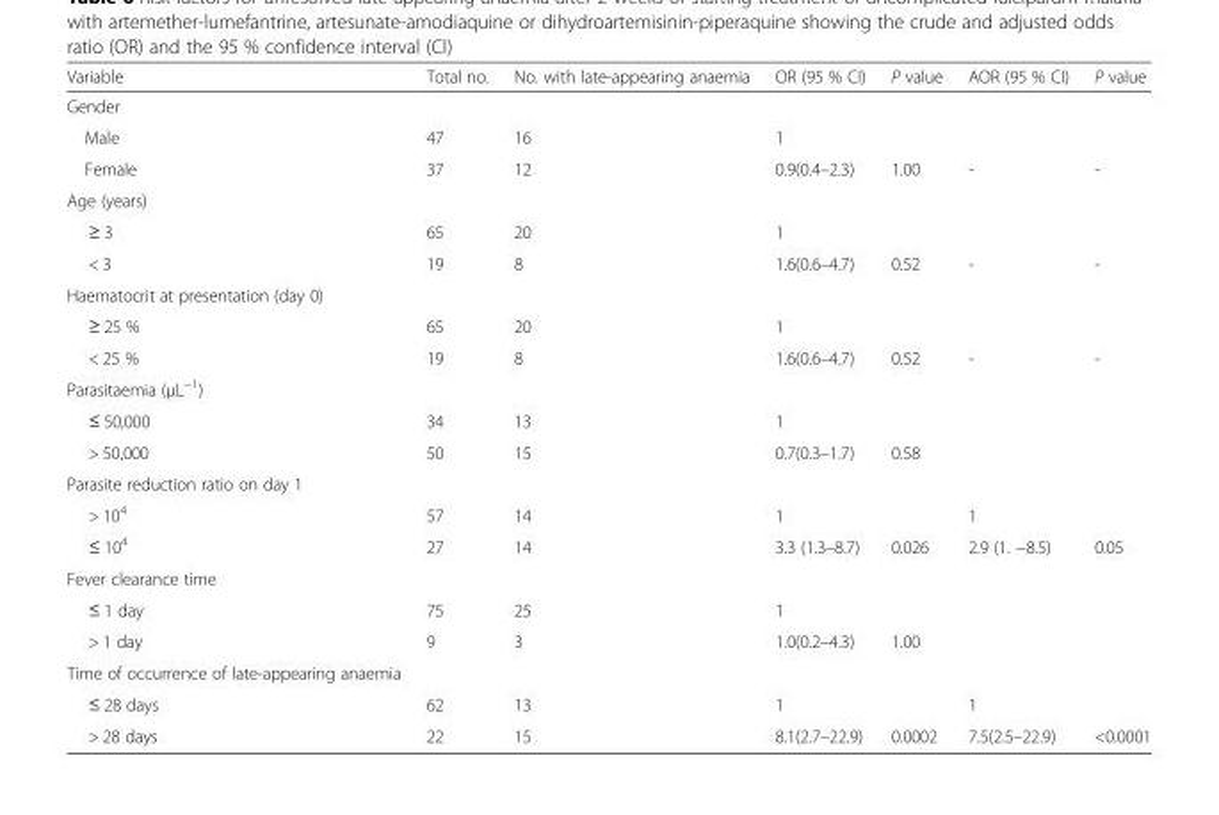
<table><thead><tr><td>Variable</td><td>Total no.</td><td>No. with late-appearing anaemia</td><td>OR (95 % CI)</td><td>P value</td><td>AOR (95 % CI)</td><td>P value</td></tr></thead><tbody><tr><td colspan="7">Gender</td></tr><tr><td>Male</td><td>47</td><td>16</td><td>1</td><td></td><td></td><td></td></tr><tr><td>Female</td><td>37</td><td>12</td><td>0.9(0.4–2.3)</td><td>1.00</td><td>-</td><td>-</td></tr><tr><td colspan="7">Age (years)</td></tr><tr><td>≥ 3</td><td>65</td><td>20</td><td>1</td><td></td><td></td><td></td></tr><tr><td>&lt; 3</td><td>19</td><td>8</td><td>1.6(0.6–4.7)</td><td>0.52</td><td>-</td><td>-</td></tr><tr><td colspan="7">Haematocrit at presentation (day 0)</td></tr><tr><td>≥ 25 %</td><td>65</td><td>20</td><td>1</td><td></td><td></td><td></td></tr><tr><td>&lt; 25 %</td><td>19</td><td>8</td><td>1.6(0.6–4.7)</td><td>0.52</td><td>-</td><td>-</td></tr><tr><td colspan="7">Parasitaemia (μL<sup>−1</sup>)</td></tr><tr><td>≤ 50,000</td><td>34</td><td>13</td><td>1</td><td></td><td></td><td></td></tr><tr><td>&gt; 50,000</td><td>50</td><td>15</td><td>0.7(0.3–1.7)</td><td>0.58</td><td></td><td></td></tr><tr><td colspan="7">Parasite reduction ratio on day 1</td></tr><tr><td>&gt; 10<sup>4</sup></td><td>57</td><td>14</td><td>1</td><td></td><td>1</td><td></td></tr><tr><td>≤ 10<sup>4</sup></td><td>27</td><td>14</td><td>3.3 (1.3–8.7)</td><td>0.026</td><td>2.9 (1. −8.5)</td><td>0.05</td></tr><tr><td colspan="7">Fever clearance time</td></tr><tr><td>≤ 1 day</td><td>75</td><td>25</td><td>1</td><td></td><td></td><td></td></tr><tr><td>&gt; 1 day</td><td>9</td><td>3</td><td>1.0(0.2–4.3)</td><td>1.00</td><td></td><td></td></tr><tr><td colspan="7">Time of occurrence of late-appearing anaemia</td></tr><tr><td>≤ 28 days</td><td>62</td><td>13</td><td>1</td><td></td><td>1</td><td></td></tr><tr><td>&gt; 28 days</td><td>22</td><td>15</td><td>8.1(2.7–22.9)</td><td>0.0002</td><td>7.5(2.5–22.9)</td><td>&lt;0.0001</td></tr></tbody></table>